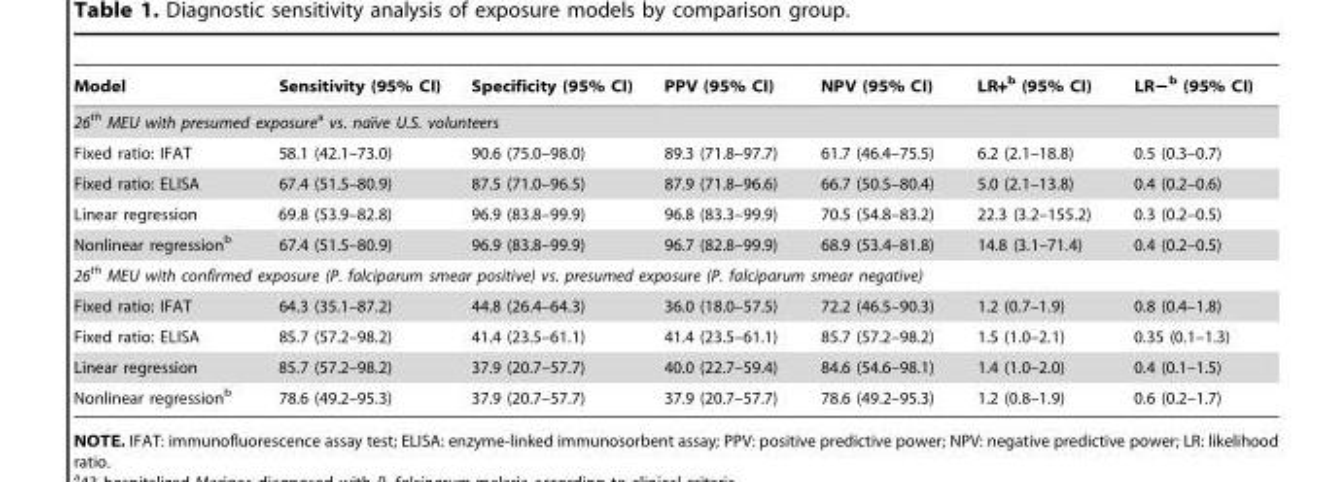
<table><thead><tr><td>Model</td><td>Sensitivity (95% CI)</td><td>Specificity (95% CI)</td><td>PPV (95% CI)</td><td>NPV (95% CI)</td><td>LR+<sup>b</sup> (95% CI)</td><td>LR−b (95% CI)</td></tr></thead><tbody><tr><td colspan="7">26th MEU with presumed exposurea vs. naı¨ve U.S. volunteers</td></tr><tr><td>Fixed ratio: IFAT</td><td>58.1 (42.1–73.0)</td><td>90.6 (75.0–98.0)</td><td>89.3 (71.8–97.7)</td><td>61.7 (46.4–75.5)</td><td>6.2 (2.1–18.8)</td><td>0.5 (0.3–0.7)</td></tr><tr><td>Fixed ratio: ELISA</td><td>67.4 (51.5–80.9)</td><td>87.5 (71.0–96.5)</td><td>87.9 (71.8–96.6)</td><td>66.7 (50.5–80.4)</td><td>5.0 (2.1–13.8)</td><td>0.4 (0.2–0.6)</td></tr><tr><td>Linear regression</td><td>69.8 (53.9–82.8)</td><td>96.9 (83.8–99.9)</td><td>96.8 (83.3–99.9)</td><td>70.5 (54.8–83.2)</td><td>22.3 (3.2–155.2)</td><td>0.3 (0.2–0.5)</td></tr><tr><td>Nonlinear regression<sup>b</sup></td><td>67.4 (51.5–80.9)</td><td>96.9 (83.8–99.9)</td><td>96.7 (82.8–99.9)</td><td>68.9 (53.4–81.8)</td><td>14.8 (3.1–71.4)</td><td>0.4 (0.2–0.5)</td></tr><tr><td colspan="7">26<sup>th</sup> MEU with confirmed exposure (P. falciparum smear positive) vs. presumed exposure (P. falciparum smear negative)</td></tr><tr><td>Fixed ratio: IFAT</td><td>64.3 (35.1–87.2)</td><td>44.8 (26.4–64.3)</td><td>36.0 (18.0–57.5)</td><td>72.2 (46.5–90.3)</td><td>1.2 (0.7–1.9)</td><td>0.8 (0.4–1.8)</td></tr><tr><td>Fixed ratio: ELISA</td><td>85.7 (57.2–98.2)</td><td>41.4 (23.5–61.1)</td><td>41.4 (23.5–61.1)</td><td>85.7 (57.2–98.2)</td><td>1.5 (1.0–2.1)</td><td>0.35 (0.1–1.3)</td></tr><tr><td>Linear regression</td><td>85.7 (57.2–98.2)</td><td>37.9 (20.7–57.7)</td><td>40.0 (22.7–59.4)</td><td>84.6 (54.6–98.1)</td><td>1.4 (1.0–2.0)</td><td>0.4 (0.1–1.5)</td></tr><tr><td>Nonlinear regression<sup>b</sup></td><td>78.6 (49.2–95.3)</td><td>37.9 (20.7–57.7)</td><td>37.9 (20.7–57.7)</td><td>78.6 (49.2–95.3)</td><td>1.2 (0.8–1.9)</td><td>0.6 (0.2–1.7)</td></tr></tbody></table>